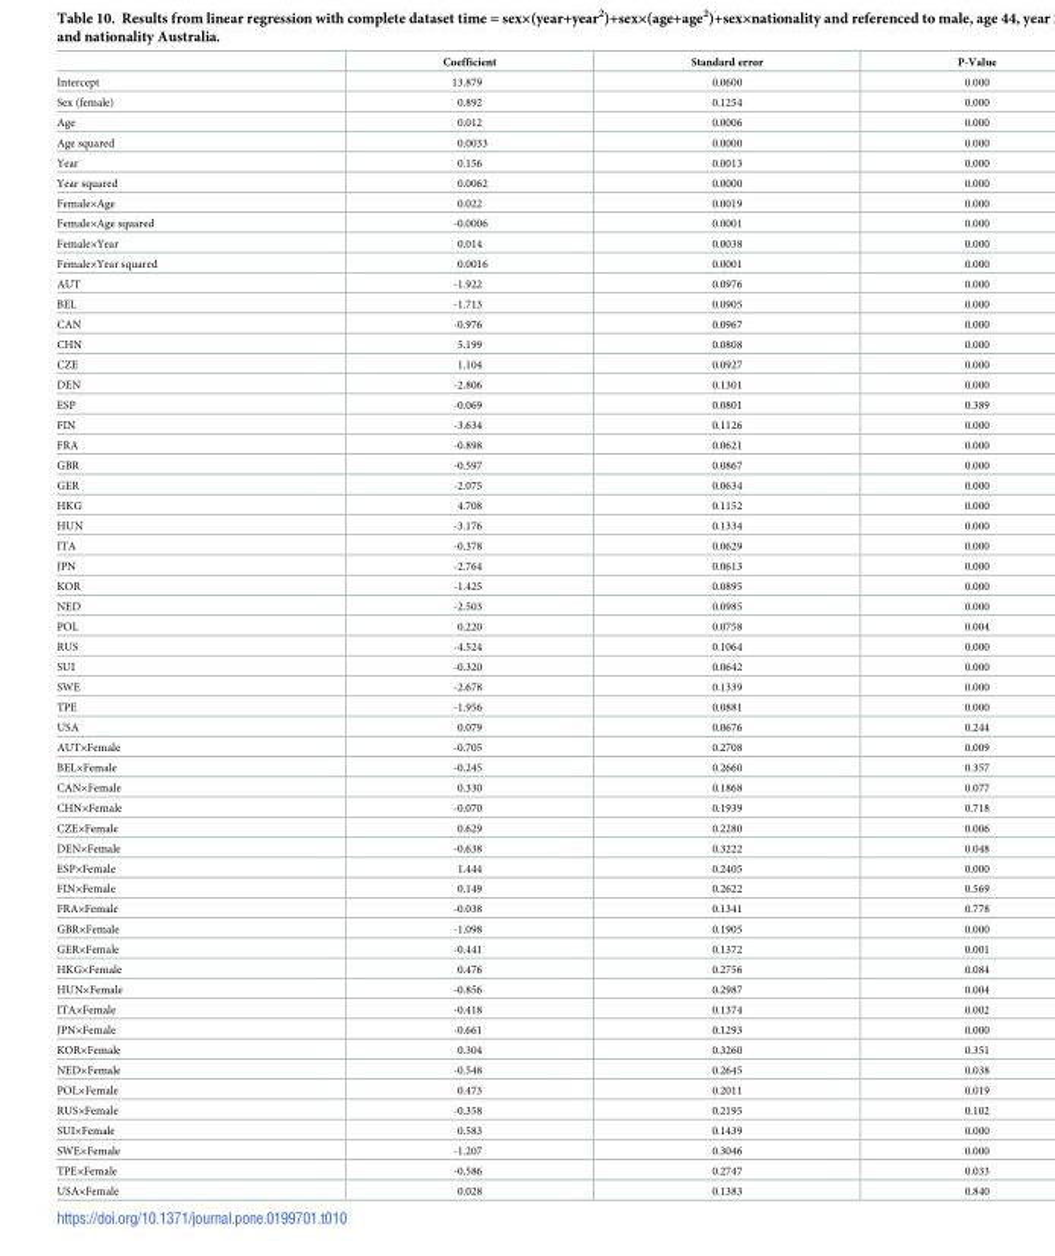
<table><thead><tr><td></td><td>Coefficient</td><td>Standard error</td><td>P-Value</td></tr></thead><tbody><tr><td>Intercept</td><td>13.879</td><td>0.0600</td><td>0.000</td></tr><tr><td>Sex (female)</td><td>0.892</td><td>0.1254</td><td>0.000</td></tr><tr><td>Age</td><td>0.012</td><td>0.0006</td><td>0.000</td></tr><tr><td>Age squared</td><td>0.0033</td><td>0.0000</td><td>0.000</td></tr><tr><td>Year</td><td>0.156</td><td>0.0013</td><td>0.000</td></tr><tr><td>Year squared</td><td>0.0062</td><td>0.0000</td><td>0.000</td></tr><tr><td>Female×Age</td><td>0.022</td><td>0.0019</td><td>0.000</td></tr><tr><td>Female×Age squared</td><td>-0.0006</td><td>0.0001</td><td>0.000</td></tr><tr><td>Female×Year</td><td>0.014</td><td>0.0038</td><td>0.000</td></tr><tr><td>Female×Year squared</td><td>0.0016</td><td>0.0001</td><td>0.000</td></tr><tr><td>AUT</td><td>-1.922</td><td>0.0976</td><td>0.000</td></tr><tr><td>BEL</td><td>-1.713</td><td>0.0905</td><td>0.000</td></tr><tr><td>CAN</td><td>-0.976</td><td>0.0967</td><td>0.000</td></tr><tr><td>CHN</td><td>5.199</td><td>0.0808</td><td>0.000</td></tr><tr><td>CZE</td><td>1.104</td><td>0.0927</td><td>0.000</td></tr><tr><td>DEN</td><td>-2.806</td><td>0.1301</td><td>0.000</td></tr><tr><td>ESP</td><td>-0.069</td><td>0.0801</td><td>0.389</td></tr><tr><td>FIN</td><td>-3.634</td><td>0.1126</td><td>0.000</td></tr><tr><td>FRA</td><td>-0.898</td><td>0.0621</td><td>0.000</td></tr><tr><td>GBR</td><td>-0.597</td><td>0.0867</td><td>0.000</td></tr><tr><td>GER</td><td>-2.075</td><td>0.0634</td><td>0.000</td></tr><tr><td>HKG</td><td>4.708</td><td>0.1152</td><td>0.000</td></tr><tr><td>HUN</td><td>-3.176</td><td>0.1334</td><td>0.000</td></tr><tr><td>ITA</td><td>-0.378</td><td>0.0629</td><td>0.000</td></tr><tr><td>JPN</td><td>-2.764</td><td>0.0613</td><td>0.000</td></tr><tr><td>KOR</td><td>-1.425</td><td>0.0895</td><td>0.000</td></tr><tr><td>NED</td><td>-2.503</td><td>0.0985</td><td>0.000</td></tr><tr><td>POL</td><td>0.220</td><td>0.0758</td><td>0.004</td></tr><tr><td>RUS</td><td>-4.524</td><td>0.1064</td><td>0.000</td></tr><tr><td>SUI</td><td>-0.320</td><td>0.0642</td><td>0.000</td></tr><tr><td>SWE</td><td>-2.678</td><td>0.1339</td><td>0.000</td></tr><tr><td>TPE</td><td>-1.956</td><td>0.0881</td><td>0.000</td></tr><tr><td>USA</td><td>0.079</td><td>0.0676</td><td>0.244</td></tr><tr><td>AUT×Female</td><td>-0.705</td><td>0.2708</td><td>0.009</td></tr><tr><td>BEL×Female</td><td>-0.245</td><td>0.2660</td><td>0.357</td></tr><tr><td>CAN×Female</td><td>0.330</td><td>0.1868</td><td>0.077</td></tr><tr><td>CHN×Female</td><td>-0.070</td><td>0.1939</td><td>0.718</td></tr><tr><td>CZE×Female</td><td>0.629</td><td>0.2280</td><td>0.006</td></tr><tr><td>DEN×Female</td><td>-0.638</td><td>0.3222</td><td>0.048</td></tr><tr><td>ESP×Female</td><td>1.444</td><td>0.2405</td><td>0.000</td></tr><tr><td>FIN×Female</td><td>0.149</td><td>0.2622</td><td>0.569</td></tr><tr><td>FRA×Female</td><td>-0.038</td><td>0.1341</td><td>0.778</td></tr><tr><td>GBR×Female</td><td>-1.098</td><td>0.1905</td><td>0.000</td></tr><tr><td>GER×Female</td><td>-0.441</td><td>0.1372</td><td>0.001</td></tr><tr><td>HKG×Female</td><td>0.476</td><td>0.2756</td><td>0.084</td></tr><tr><td>HUN×Female</td><td>-0.856</td><td>0.2987</td><td>0.004</td></tr><tr><td>ITA×Female</td><td>-0.418</td><td>0.1374</td><td>0.002</td></tr><tr><td>JPN×Female</td><td>-0.661</td><td>0.1293</td><td>0.000</td></tr><tr><td>KOR×Female</td><td>0.304</td><td>0.3260</td><td>0.351</td></tr><tr><td>NED×Female</td><td>-0.548</td><td>0.2645</td><td>0.038</td></tr><tr><td>POL×Female</td><td>0.473</td><td>0.2011</td><td>0.019</td></tr><tr><td>RUS×Female</td><td>-0.358</td><td>0.2195</td><td>0.102</td></tr><tr><td>SUI×Female</td><td>0.583</td><td>0.1439</td><td>0.000</td></tr><tr><td>SWE×Female</td><td>-1.207</td><td>0.3046</td><td>0.000</td></tr><tr><td>TPE×Female</td><td>-0.586</td><td>0.2747</td><td>0.033</td></tr><tr><td>USA×Female</td><td>0.028</td><td>0.1383</td><td>0.840</td></tr></tbody></table>